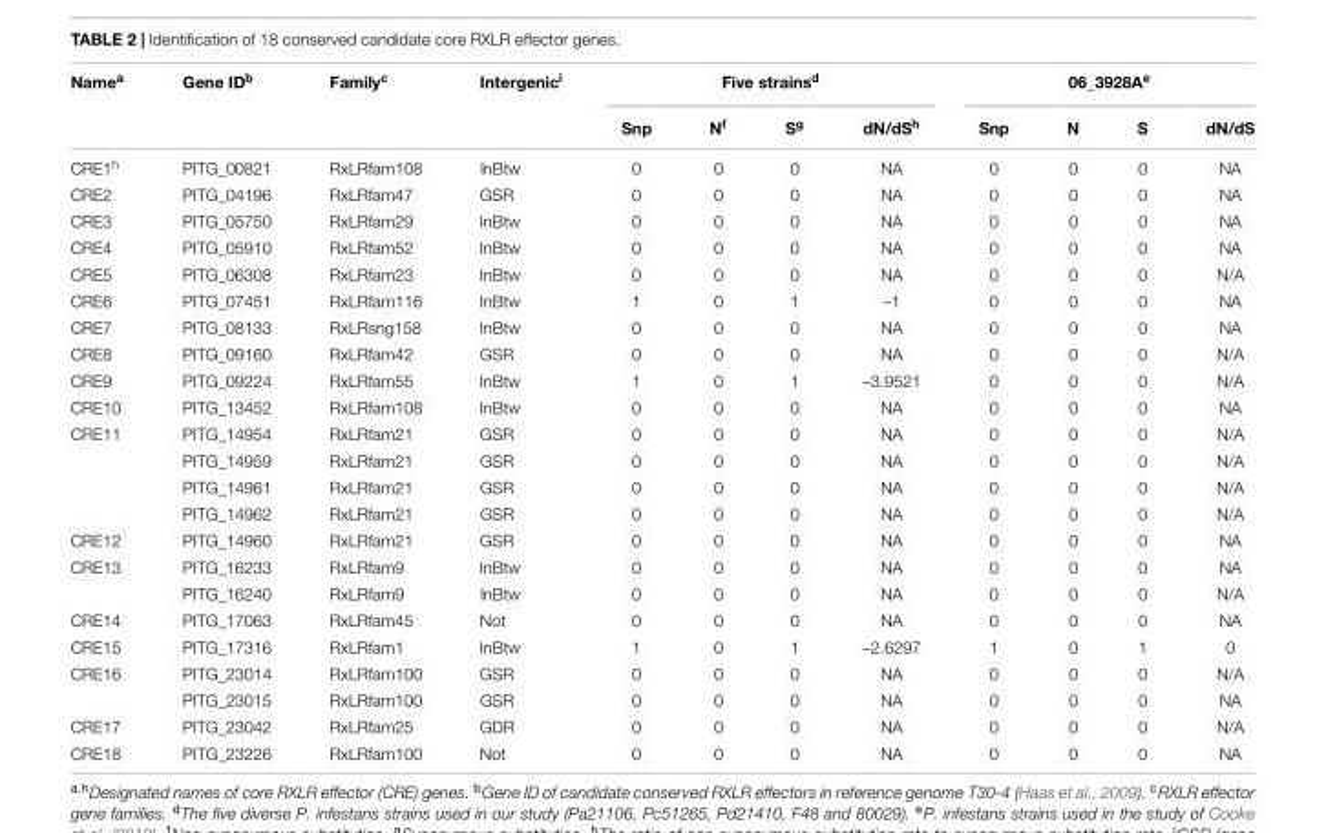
<table><thead><tr><td rowspan="2">Name<sup>a</sup></td><td rowspan="2">Gene ID<sup>b</sup></td><td rowspan="2">Family<sup>c</sup></td><td rowspan="2">Intergenic<sup>i</sup></td><td colspan="4">Five strains<sup>d</sup></td><td colspan="4">06_3928A<sup>e</sup></td></tr><tr><td>Snp</td><td>N<sup>f</sup></td><td>S<sup>g</sup></td><td>dN/dS<sup>h</sup></td><td>Snp</td><td>N</td><td>S</td><td>dN/dS</td></tr></thead><tbody><tr><td>CRE1<sup>h</sup></td><td>PITG_00821</td><td>RxLRfam108</td><td>InBtw</td><td>0</td><td>0</td><td>0</td><td>NA</td><td>0</td><td>0</td><td>0</td><td>NA</td></tr><tr><td>CRE2</td><td>PITG_04196</td><td>RxLRfam47</td><td>GSR</td><td>0</td><td>0</td><td>0</td><td>NA</td><td>0</td><td>0</td><td>0</td><td>NA</td></tr><tr><td>CRE3</td><td>PITG_05750</td><td>RxLRfam29</td><td>InBtw</td><td>0</td><td>0</td><td>0</td><td>NA</td><td>0</td><td>0</td><td>0</td><td>NA</td></tr><tr><td>CRE4</td><td>PITG_05910</td><td>RxLRfam52</td><td>InBtw</td><td>0</td><td>0</td><td>0</td><td>NA</td><td>0</td><td>0</td><td>0</td><td>NA</td></tr><tr><td>CRE5</td><td>PITG_06308</td><td>RxLRfam23</td><td>InBtw</td><td>0</td><td>0</td><td>0</td><td>NA</td><td>0</td><td>0</td><td>0</td><td>N/A</td></tr><tr><td>CRE6</td><td>PITG_07451</td><td>RxLRfam116</td><td>InBtw</td><td>1</td><td>0</td><td>1</td><td>–1</td><td>0</td><td>0</td><td>0</td><td>NA</td></tr><tr><td>CRE7</td><td>PITG_08133</td><td>RxLRsng158</td><td>InBtw</td><td>0</td><td>0</td><td>0</td><td>NA</td><td>0</td><td>0</td><td>0</td><td>NA</td></tr><tr><td>CRE8</td><td>PITG_09160</td><td>RxLRfam42</td><td>GSR</td><td>0</td><td>0</td><td>0</td><td>NA</td><td>0</td><td>0</td><td>0</td><td>N/A</td></tr><tr><td>CRE9</td><td>PITG_09224</td><td>RxLRfam55</td><td>InBtw</td><td>1</td><td>0</td><td>1</td><td>–3.9521</td><td>0</td><td>0</td><td>0</td><td>N/A</td></tr><tr><td>CRE10</td><td>PITG_13452</td><td>RxLRfam108</td><td>InBtw</td><td>0</td><td>0</td><td>0</td><td>NA</td><td>0</td><td>0</td><td>0</td><td>NA</td></tr><tr><td rowspan="4">CRE11</td><td>PITG_14954</td><td>RxLRfam21</td><td>GSR</td><td>0</td><td>0</td><td>0</td><td>NA</td><td>0</td><td>0</td><td>0</td><td>N/A</td></tr><tr><td>PITG_14959</td><td>RxLRfam21</td><td>GSR</td><td>0</td><td>0</td><td>0</td><td>NA</td><td>0</td><td>0</td><td>0</td><td>N/A</td></tr><tr><td>PITG_14961</td><td>RxLRfam21</td><td>GSR</td><td>0</td><td>0</td><td>0</td><td>NA</td><td>0</td><td>0</td><td>0</td><td>N/A</td></tr><tr><td>PITG_14962</td><td>RxLRfam21</td><td>GSR</td><td>0</td><td>0</td><td>0</td><td>NA</td><td>0</td><td>0</td><td>0</td><td>N/A</td></tr><tr><td>CRE12</td><td>PITG_14960</td><td>RxLRfam21</td><td>GSR</td><td>0</td><td>0</td><td>0</td><td>NA</td><td>0</td><td>0</td><td>0</td><td>NA</td></tr><tr><td rowspan="2">CRE13</td><td>PITG_16233</td><td>RxLRfam9</td><td>InBtw</td><td>0</td><td>0</td><td>0</td><td>NA</td><td>0</td><td>0</td><td>0</td><td>NA</td></tr><tr><td>PITG_16240</td><td>RxLRfam9</td><td>InBtw</td><td>0</td><td>0</td><td>0</td><td>NA</td><td>0</td><td>0</td><td>0</td><td>N/A</td></tr><tr><td>CRE14</td><td>PITG_17063</td><td>RxLRfam45</td><td>Not</td><td>0</td><td>0</td><td>0</td><td>NA</td><td>0</td><td>0</td><td>0</td><td>NA</td></tr><tr><td>CRE15</td><td>PITG_17316</td><td>RxLRfam1</td><td>InBtw</td><td>1</td><td>0</td><td>1</td><td>–2.6297</td><td>1</td><td>0</td><td>1</td><td>0</td></tr><tr><td rowspan="2">CRE16</td><td>PITG_23014</td><td>RxLRfam100</td><td>GSR</td><td>0</td><td>0</td><td>0</td><td>NA</td><td>0</td><td>0</td><td>0</td><td>N/A</td></tr><tr><td>PITG_23015</td><td>RxLRfam100</td><td>GSR</td><td>0</td><td>0</td><td>0</td><td>NA</td><td>0</td><td>0</td><td>0</td><td>NA</td></tr><tr><td>CRE17</td><td>PITG_23042</td><td>RxLRfam25</td><td>GDR</td><td>0</td><td>0</td><td>0</td><td>NA</td><td>0</td><td>0</td><td>0</td><td>N/A</td></tr><tr><td>CRE18</td><td>PITG_23226</td><td>RxLRfam100</td><td>Not</td><td>0</td><td>0</td><td>0</td><td>NA</td><td>0</td><td>0</td><td>0</td><td>NA</td></tr></tbody></table>